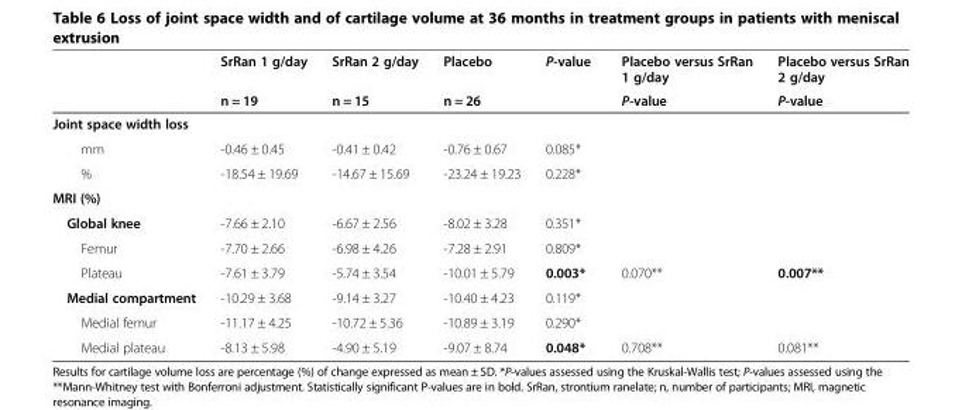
<table><thead><tr><td rowspan="2"></td><td rowspan="2">SrRan 1 g/day n = 19</td><td rowspan="2">SrRan 2 g/day n = 15</td><td rowspan="2">Placebo n = 26</td><td rowspan="2">P-value</td><td rowspan="2">Placebo versus SrRan 1 g/day P-value</td><td rowspan="2">Placebo versus SrRan 2 g/day P-value</td></tr><tr></tr></thead><tbody><tr><td colspan="7">Joint space width loss</td></tr><tr><td>mm</td><td>-0.46 ± 0.45</td><td>-0.41 ± 0.42</td><td>-0.76 ± 0.67</td><td>0.085*</td><td></td><td></td></tr><tr><td>%</td><td>-18.54 ± 19.69</td><td>-14.67 ± 15.69</td><td>-23.24 ± 19.23</td><td>0.228*</td><td></td><td></td></tr><tr><td colspan="7">MRI (%)</td></tr><tr><td>Global knee</td><td>-7.66 ± 2.10</td><td>-6.67 ± 2.56</td><td>-8.02 ± 3.28</td><td>0.351*</td><td></td><td></td></tr><tr><td>Femur</td><td>-7.70 ± 2.66</td><td>-6.98 ± 4.26</td><td>-7.28 ± 2.91</td><td>0.809*</td><td></td><td></td></tr><tr><td>Plateau</td><td>-7.61 ± 3.79</td><td>-5.74 ± 3.54</td><td>-10.01 ± 5.79</td><td>0.003*</td><td>0.070**</td><td>0.007**</td></tr><tr><td>Medial compartment</td><td>-10.29 ± 3.68</td><td>-9.14 ± 3.27</td><td>-10.40 ± 4.23</td><td>0.119*</td><td></td><td></td></tr><tr><td>Medial femur</td><td>-11.17 ± 4.25</td><td>-10.72 ± 5.36</td><td>-10.89 ± 3.19</td><td>0.290*</td><td></td><td></td></tr><tr><td>Medial plateau</td><td>-8.13 ± 5.98</td><td>-4.90 ± 5.19</td><td>-9.07 ± 8.74</td><td>0.048*</td><td>0.708**</td><td>0.081**</td></tr></tbody></table>